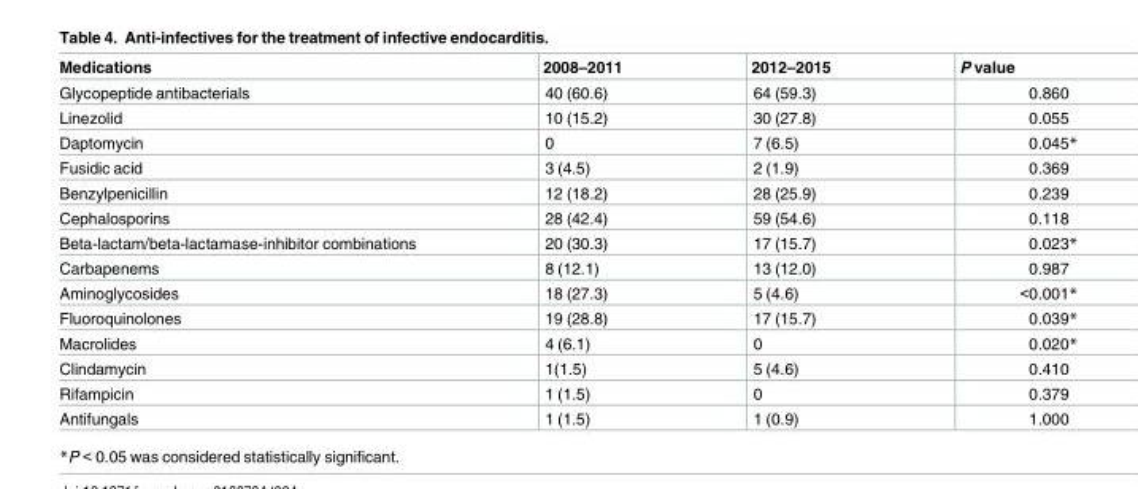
<table><thead><tr><td>Medications</td><td>2008–2011</td><td>2012–2015</td><td>P value</td></tr></thead><tbody><tr><td>Glycopeptide antibacterials</td><td>40 (60.6)</td><td>64 (59.3)</td><td>0.860</td></tr><tr><td>Linezolid</td><td>10 (15.2)</td><td>30 (27.8)</td><td>0.055</td></tr><tr><td>Daptomycin</td><td>0</td><td>7 (6.5)</td><td>0.045*</td></tr><tr><td>Fusidic acid</td><td>3 (4.5)</td><td>2 (1.9)</td><td>0.369</td></tr><tr><td>Benzylpenicillin</td><td>12 (18.2)</td><td>28 (25.9)</td><td>0.239</td></tr><tr><td>Cephalosporins</td><td>28 (42.4)</td><td>59 (54.6)</td><td>0.118</td></tr><tr><td>Beta-lactam/beta-lactamase-inhibitor combinations</td><td>20 (30.3)</td><td>17 (15.7)</td><td>0.023*</td></tr><tr><td>Carbapenems</td><td>8 (12.1)</td><td>13 (12.0)</td><td>0.987</td></tr><tr><td>Aminoglycosides</td><td>18 (27.3)</td><td>5 (4.6)</td><td>&lt;0.001*</td></tr><tr><td>Fluoroquinolones</td><td>19 (28.8)</td><td>17 (15.7)</td><td>0.039*</td></tr><tr><td>Macrolides</td><td>4 (6.1)</td><td>0</td><td>0.020*</td></tr><tr><td>Clindamycin</td><td>1(1.5)</td><td>5 (4.6)</td><td>0.410</td></tr><tr><td>Rifampicin</td><td>1 (1.5)</td><td>0</td><td>0.379</td></tr><tr><td>Antifungals</td><td>1 (1.5)</td><td>1 (0.9)</td><td>1.000</td></tr></tbody></table>